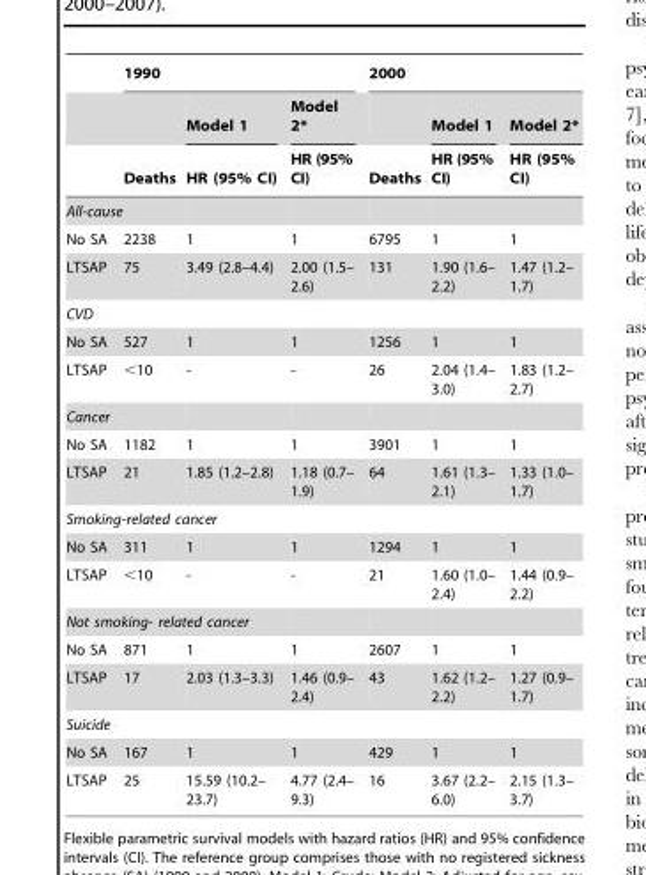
<table><thead><tr><td rowspan="3"></td><td colspan="3">1990</td><td colspan="3">2000</td></tr><tr><td rowspan="2">Deaths</td><td rowspan="2">Model 1 HR (95% CI)</td><td rowspan="2">Model 2* HR (95% CI)</td><td rowspan="2">Deaths</td><td rowspan="2">Model 1 HR (95% CI)</td><td rowspan="2">Model 2* HR (95% CI)</td></tr><tr></tr></thead><tbody><tr><td colspan="7">All-cause</td></tr><tr><td>No SA</td><td>2238</td><td>1</td><td>1</td><td>6795</td><td>1</td><td>1</td></tr><tr><td>LTSAP</td><td>75</td><td>3.49 (2.8–4.4)</td><td>2.00 (1.5– 2.6)</td><td>131</td><td>1.90 (1.6– 2.2)</td><td>1.47 (1.2– 1.7)</td></tr><tr><td colspan="7">CVD</td></tr><tr><td>No SA</td><td>527</td><td>1</td><td>1</td><td>1256</td><td>1</td><td>1</td></tr><tr><td>LTSAP</td><td>&lt;10</td><td>-</td><td>-</td><td>26</td><td>2.04 (1.4– 3.0)</td><td>1.83 (1.2– 2.7)</td></tr><tr><td colspan="7">Cancer</td></tr><tr><td>No SA</td><td>1182</td><td>1</td><td>1</td><td>3901</td><td>1</td><td>1</td></tr><tr><td>LTSAP</td><td>21</td><td>1.85 (1.2–2.8)</td><td>1.18 (0.7– 1.9)</td><td>64</td><td>1.61 (1.3– 2.1)</td><td>1.33 (1.0– 1.7)</td></tr><tr><td colspan="7">Smoking-related cancer</td></tr><tr><td>No SA</td><td>311</td><td>1</td><td>1</td><td>1294</td><td>1</td><td>1</td></tr><tr><td>LTSAP</td><td>&lt;10</td><td>-</td><td>-</td><td>21</td><td>1.60 (1.0– 2.4)</td><td>1.44 (0.9– 2.2)</td></tr><tr><td colspan="7">Not smoking- related cancer</td></tr><tr><td>No SA</td><td>871</td><td>1</td><td>1</td><td>2607</td><td>1</td><td>1</td></tr><tr><td>LTSAP</td><td>17</td><td>2.03 (1.3–3.3)</td><td>1.46 (0.9– 2.4)</td><td>43</td><td>1.62 (1.2– 2.2)</td><td>1.27 (0.9– 1.7)</td></tr><tr><td colspan="7">Suicide</td></tr><tr><td>No SA</td><td>167</td><td>1</td><td>1</td><td>429</td><td>1</td><td>1</td></tr><tr><td>LTSAP</td><td>25</td><td>15.59 (10.2– 23.7)</td><td>4.77 (2.4– 9.3)</td><td>16</td><td>3.67 (2.2– 6.0)</td><td>2.15 (1.3– 3.7)</td></tr></tbody></table>